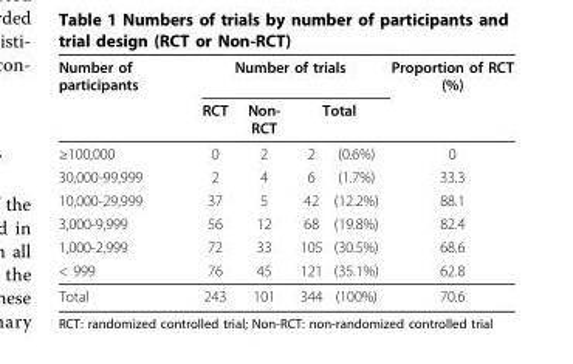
<table><thead><tr><td rowspan="3">Number of participants ≥100,000</td><td colspan="4">Number of trials</td><td rowspan="3">Proportion of RCT (%) 0</td></tr><tr><td rowspan="2">RCT 0</td><td rowspan="2">Non- RCT 2</td><td colspan="2">Total</td></tr><tr><td>2</td><td>(0.6%)</td></tr></thead><tbody><tr><td>30,000-99,999</td><td>2</td><td>4</td><td>6</td><td>(1.7%)</td><td>33.3</td></tr><tr><td>10,000-29,999</td><td>37</td><td>5</td><td>42</td><td>(12.2%)</td><td>88.1</td></tr><tr><td>3,000-9,999</td><td>56</td><td>12</td><td>68</td><td>(19.8%)</td><td>82.4</td></tr><tr><td>1,000-2,999</td><td>72</td><td>33</td><td>105</td><td>(30.5%)</td><td>68.6</td></tr><tr><td>&lt; 999</td><td>76</td><td>45</td><td>121</td><td>(35.1%)</td><td>62.8</td></tr><tr><td>Total</td><td>243</td><td>101</td><td>344</td><td>(100%)</td><td>70.6</td></tr></tbody></table>